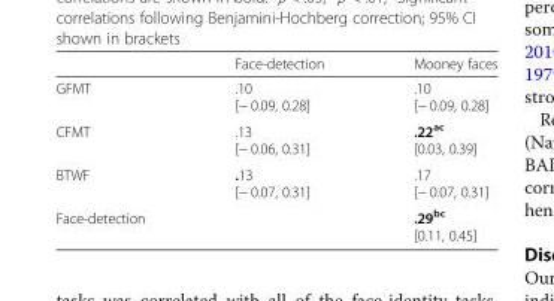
<table><thead><tr><td></td><td>Face-detection</td><td>Mooney faces</td></tr></thead><tbody><tr><td>GFMT</td><td>.10 [− 0.09, 0.28]</td><td>.10 [− 0.09, 0.28]</td></tr><tr><td>CFMT</td><td>.13 [− 0.06, 0.31]</td><td>.22<sup>ac</sup> [0.03, 0.39]</td></tr><tr><td>BTWF</td><td>.13 [− 0.07, 0.31]</td><td>.17 [− 0.07, 0.31]</td></tr><tr><td>Face-detection</td><td></td><td>.29<sup>bc</sup> [0.11, 0.45]</td></tr></tbody></table>